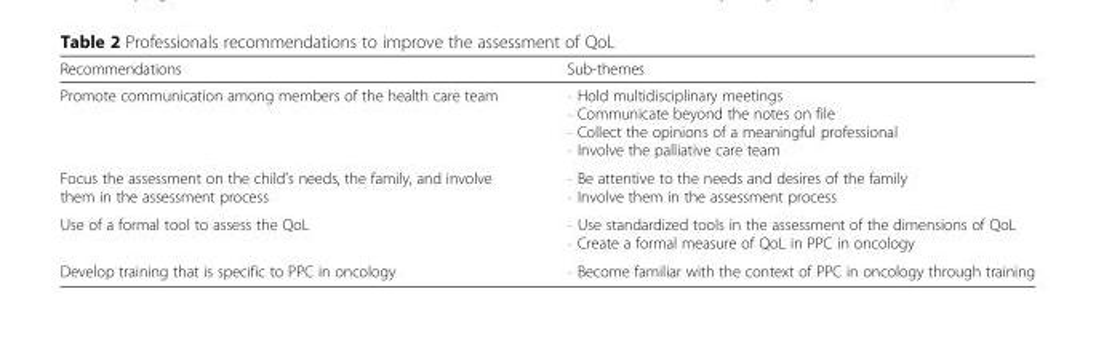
<table><thead><tr><td>Recommendations</td><td>Sub-themes</td></tr></thead><tbody><tr><td>Promote communication among members of the health care team</td><td>⋅ Hold multidisciplinary meetings ⋅ Communicate beyond the notes on file ⋅ Collect the opinions of a meaningful professional ⋅ Involve the palliative care team</td></tr><tr><td>Focus the assessment on the child’s needs, the family, and involve them in the assessment process</td><td>⋅ Be attentive to the needs and desires of the family ⋅ Involve them in the assessment process</td></tr><tr><td>Use of a formal tool to assess the QoL</td><td>⋅ Use standardized tools in the assessment of the dimensions of QoL ⋅ Create a formal measure of QoL in PPC in oncology</td></tr><tr><td>Develop training that is specific to PPC in oncology</td><td>⋅ Become familiar with the context of PPC in oncology through training</td></tr></tbody></table>